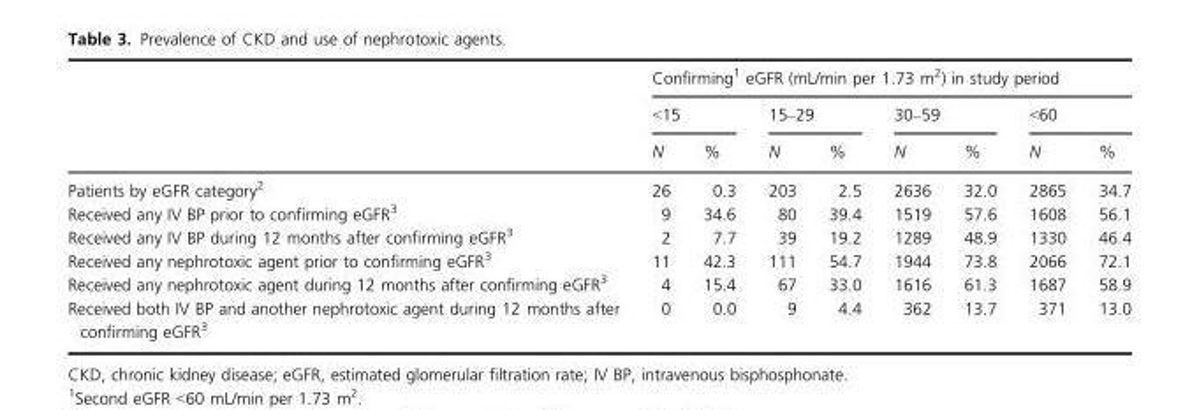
<table><thead><tr><td rowspan="3"></td><td colspan="8">Confirming<sup>1</sup> eGFR (mL/min per 1.73 m<sup>2</sup>) in study period</td></tr><tr><td colspan="2">&lt;15</td><td colspan="2">15–29</td><td colspan="2">30–59</td><td colspan="2">&lt;60</td></tr><tr><td>N</td><td>%</td><td>N</td><td>%</td><td>N</td><td>%</td><td>N</td><td>%</td></tr></thead><tbody><tr><td>Patients by eGFR category<sup>2</sup></td><td>26</td><td>0.3</td><td>203</td><td>2.5</td><td>2636</td><td>32.0</td><td>2865</td><td>34.7</td></tr><tr><td>Received any IV BP prior to confirming eGFR<sup>3</sup></td><td>9</td><td>34.6</td><td>80</td><td>39.4</td><td>1519</td><td>57.6</td><td>1608</td><td>56.1</td></tr><tr><td>Received any IV BP during 12 months after confirming eGFR<sup>3</sup></td><td>2</td><td>7.7</td><td>39</td><td>19.2</td><td>1289</td><td>48.9</td><td>1330</td><td>46.4</td></tr><tr><td>Received any nephrotoxic agent prior to confirming eGFR<sup>3</sup></td><td>11</td><td>42.3</td><td>111</td><td>54.7</td><td>1944</td><td>73.8</td><td>2066</td><td>72.1</td></tr><tr><td>Received any nephrotoxic agent during 12 months after confirming eGFR<sup>3</sup></td><td>4</td><td>15.4</td><td>67</td><td>33.0</td><td>1616</td><td>61.3</td><td>1687</td><td>58.9</td></tr><tr><td>Received both IV BP and another nephrotoxic agent during 12 months after confirming eGFR<sup>3</sup></td><td>0</td><td>0.0</td><td>9</td><td>4.4</td><td>362</td><td>13.7</td><td>371</td><td>13.0</td></tr></tbody></table>